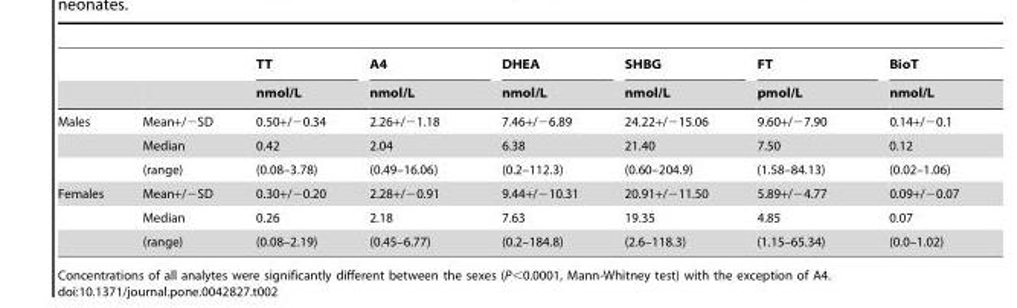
<table><thead><tr><td rowspan="2"></td><td rowspan="2"></td><td rowspan="2">TT nmol/L</td><td rowspan="2">A4 nmol/L</td><td rowspan="2">DHEA nmol/L</td><td rowspan="2">SHBG nmol/L</td><td rowspan="2">FT pmol/L</td><td rowspan="2">BioT nmol/L</td></tr><tr></tr></thead><tbody><tr><td rowspan="3">Males</td><td>Mean+/−SD</td><td>0.50+/−0.34</td><td>2.26+/−1.18</td><td>7.46+/−6.89</td><td>24.22+/−15.06</td><td>9.60+/−7.90</td><td>0.14+/−0.1</td></tr><tr><td>Median</td><td>0.42</td><td>2.04</td><td>6.38</td><td>21.40</td><td>7.50</td><td>0.12</td></tr><tr><td>(range)</td><td>(0.08–3.78)</td><td>(0.49–16.06)</td><td>(0.2–112.3)</td><td>(0.60–204.9)</td><td>(1.58–84.13)</td><td>(0.02–1.06)</td></tr><tr><td rowspan="3">Females</td><td>Mean+/−SD</td><td>0.30+/−0.20</td><td>2.28+/−0.91</td><td>9.44+/−10.31</td><td>20.91+/−11.50</td><td>5.89+/−4.77</td><td>0.09+/−0.07</td></tr><tr><td>Median</td><td>0.26</td><td>2.18</td><td>7.63</td><td>19.35</td><td>4.85</td><td>0.07</td></tr><tr><td>(range)</td><td>(0.08–2.19)</td><td>(0.45–6.77)</td><td>(0.2–184.8)</td><td>(2.6–118.3)</td><td>(1.15–65.34)</td><td>(0.0–1.02)</td></tr></tbody></table>